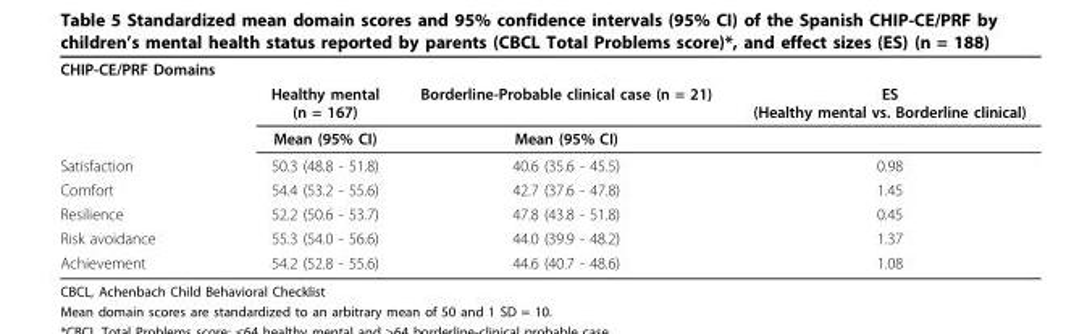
<table><tbody><tr><td colspan="4">CHIP-CE/PRF Domains</td></tr><tr><td></td><td>Healthy mental (n = 167)</td><td>Borderline-Probable clinical case (n = 21)</td><td>ES (Healthy mental vs. Borderline clinical)</td></tr><tr><td></td><td>Mean (95% CI)</td><td>Mean (95% CI)</td><td></td></tr><tr><td>Satisfaction</td><td>50.3 (48.8 - 51.8)</td><td>40.6 (35.6 - 45.5)</td><td>0.98</td></tr><tr><td>Comfort</td><td>54.4 (53.2 - 55.6)</td><td>42.7 (37.6 - 47.8)</td><td>1.45</td></tr><tr><td>Resilience</td><td>52.2 (50.6 - 53.7)</td><td>47.8 (43.8 - 51.8)</td><td>0.45</td></tr><tr><td>Risk avoidance</td><td>55.3 (54.0 - 56.6)</td><td>44.0 (39.9 - 48.2)</td><td>1.37</td></tr><tr><td>Achievement</td><td>54.2 (52.8 - 55.6)</td><td>44.6 (40.7 - 48.6)</td><td>1.08</td></tr></tbody></table>